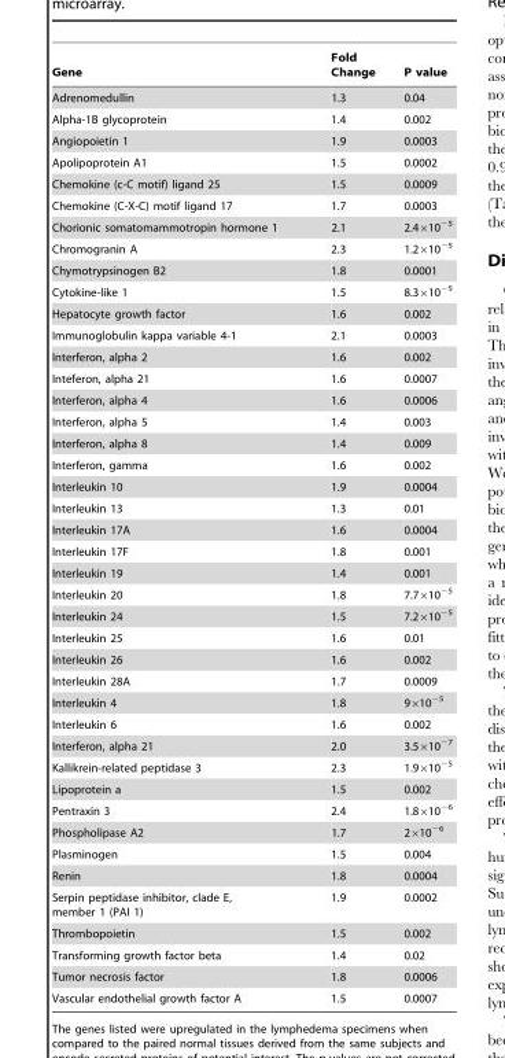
<table><thead><tr><td>Gene</td><td>Fold Change</td><td>P value</td></tr></thead><tbody><tr><td>Adrenomedullin</td><td>1.3</td><td>0.04</td></tr><tr><td>Alpha-1B glycoprotein</td><td>1.4</td><td>0.002</td></tr><tr><td>Angiopoietin 1</td><td>1.9</td><td>0.0003</td></tr><tr><td>Apolipoprotein A1</td><td>1.5</td><td>0.0002</td></tr><tr><td>Chemokine (c-C motif) ligand 25</td><td>1.5</td><td>0.0009</td></tr><tr><td>Chemokine (C-X-C) motif ligand 17</td><td>1.7</td><td>0.0003</td></tr><tr><td>Chorionic somatomammotropin hormone 1</td><td>2.1</td><td>2.4×10<sup>−5</sup></td></tr><tr><td>Chromogranin A</td><td>2.3</td><td>1.2×10<sup>−5</sup></td></tr><tr><td>Chymotrypsinogen B2</td><td>1.8</td><td>0.0001</td></tr><tr><td>Cytokine-like 1</td><td>1.5</td><td>8.3×10<sup>−5</sup></td></tr><tr><td>Hepatocyte growth factor</td><td>1.6</td><td>0.002</td></tr><tr><td>Immunoglobulin kappa variable 4-1</td><td>2.1</td><td>0.0003</td></tr><tr><td>Interferon, alpha 2</td><td>1.6</td><td>0.002</td></tr><tr><td>Inteferon, alpha 21</td><td>1.6</td><td>0.0007</td></tr><tr><td>Interferon, alpha 4</td><td>1.6</td><td>0.0006</td></tr><tr><td>Interferon, alpha 5</td><td>1.4</td><td>0.003</td></tr><tr><td>Interferon, alpha 8</td><td>1.4</td><td>0.009</td></tr><tr><td>Interferon, gamma</td><td>1.6</td><td>0.002</td></tr><tr><td>Interleukin 10</td><td>1.9</td><td>0.0004</td></tr><tr><td>Interleukin 13</td><td>1.3</td><td>0.01</td></tr><tr><td>Interleukin 17A</td><td>1.6</td><td>0.0004</td></tr><tr><td>Interleukin 17F</td><td>1.8</td><td>0.001</td></tr><tr><td>Interleukin 19</td><td>1.4</td><td>0.001</td></tr><tr><td>Interleukin 20</td><td>1.8</td><td>7.7×10<sup>−5</sup></td></tr><tr><td>Interleukin 24</td><td>1.5</td><td>7.2×10<sup>−5</sup></td></tr><tr><td>Interleukin 25</td><td>1.6</td><td>0.01</td></tr><tr><td>Interleukin 26</td><td>1.6</td><td>0.002</td></tr><tr><td>Interleukin 28A</td><td>1.7</td><td>0.0009</td></tr><tr><td>Interleukin 4</td><td>1.8</td><td>9×10<sup>−5</sup></td></tr><tr><td>Interleukin 6</td><td>1.6</td><td>0.002</td></tr><tr><td>Interferon, alpha 21</td><td>2.0</td><td>3.5×10<sup>−7</sup></td></tr><tr><td>Kallikrein-related peptidase 3</td><td>2.3</td><td>1.9×10<sup>−5</sup></td></tr><tr><td>Lipoprotein a</td><td>1.5</td><td>0.002</td></tr><tr><td>Pentraxin 3</td><td>2.4</td><td>1.8×10<sup>−6</sup></td></tr><tr><td>Phospholipase A2</td><td>1.7</td><td>2×10<sup>−6</sup></td></tr><tr><td>Plasminogen</td><td>1.5</td><td>0.004</td></tr><tr><td>Renin</td><td>1.8</td><td>0.0004</td></tr><tr><td>Serpin peptidase inhibitor, clade E, member 1 (PAI 1)</td><td>1.9</td><td>0.0002</td></tr><tr><td>Thrombopoietin</td><td>1.5</td><td>0.002</td></tr><tr><td>Transforming growth factor beta</td><td>1.4</td><td>0.02</td></tr><tr><td>Tumor necrosis factor</td><td>1.8</td><td>0.0006</td></tr><tr><td>Vascular endothelial growth factor A</td><td>1.5</td><td>0.0007</td></tr></tbody></table>